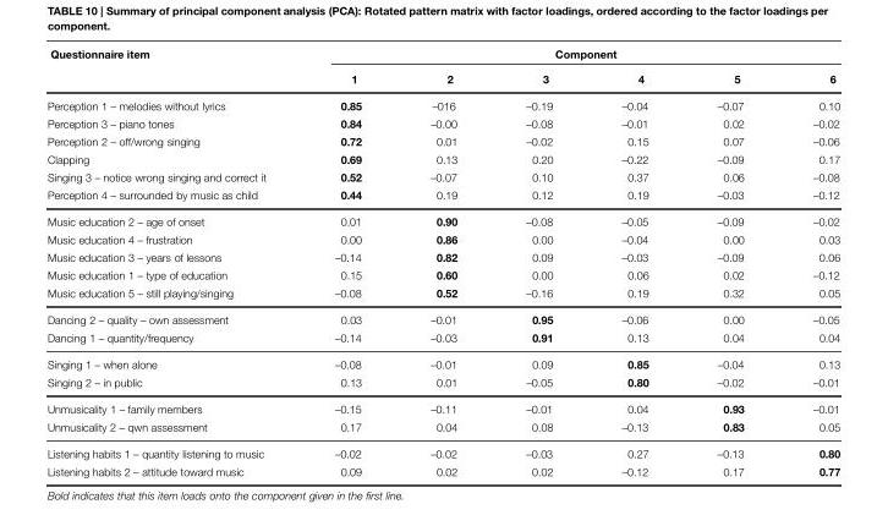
<table><thead><tr><td rowspan="2">Questionnaire item</td><td colspan="6">Component</td></tr><tr><td>1</td><td>2</td><td>3</td><td>4</td><td>5</td><td>6</td></tr></thead><tbody><tr><td>Perception 1 – melodies without lyrics</td><td>0.85</td><td>–016</td><td>–0.19</td><td>–0.04</td><td>–0.07</td><td>0.10</td></tr><tr><td>Perception 3 – piano tones</td><td>0.84</td><td>–0.00</td><td>–0.08</td><td>–0.01</td><td>0.02</td><td>–0.02</td></tr><tr><td>Perception 2 – off/wrong singing</td><td>0.72</td><td>0.01</td><td>–0.02</td><td>0.15</td><td>0.07</td><td>–0.06</td></tr><tr><td>Clapping</td><td>0.69</td><td>0.13</td><td>0.20</td><td>–0.22</td><td>–0.09</td><td>0.17</td></tr><tr><td>Singing 3 – notice wrong singing and correct it</td><td>0.52</td><td>–0.07</td><td>0.10</td><td>0.37</td><td>0.06</td><td>–0.08</td></tr><tr><td>Perception 4 – surrounded by music as child</td><td>0.44</td><td>0.19</td><td>0.12</td><td>0.19</td><td>–0.03</td><td>–0.12</td></tr><tr><td>Music education 2 – age of onset</td><td>0.01</td><td>0.90</td><td>–0.08</td><td>–0.05</td><td>–0.09</td><td>–0.02</td></tr><tr><td>Music education 4 – frustration</td><td>0.00</td><td>0.86</td><td>0.00</td><td>–0.04</td><td>0.00</td><td>0.03</td></tr><tr><td>Music education 3 – years of lessons</td><td>–0.14</td><td>0.82</td><td>0.09</td><td>–0.03</td><td>–0.09</td><td>0.06</td></tr><tr><td>Music education 1 – type of education</td><td>0.15</td><td>0.60</td><td>0.00</td><td>0.06</td><td>0.02</td><td>–0.12</td></tr><tr><td>Music education 5 – still playing/singing</td><td>–0.08</td><td>0.52</td><td>–0.16</td><td>0.19</td><td>0.32</td><td>0.05</td></tr><tr><td>Dancing 2 – quality – own assessment</td><td>0.03</td><td>–0.01</td><td>0.95</td><td>–0.06</td><td>0.00</td><td>–0.05</td></tr><tr><td>Dancing 1 – quantity/frequency</td><td>–0.14</td><td>–0.03</td><td>0.91</td><td>0.13</td><td>0.04</td><td>0.04</td></tr><tr><td>Singing 1 – when alone</td><td>–0.08</td><td>–0.01</td><td>0.09</td><td>0.85</td><td>–0.04</td><td>0.13</td></tr><tr><td>Singing 2 – in public</td><td>0.13</td><td>0.01</td><td>–0.05</td><td>0.80</td><td>–0.02</td><td>–0.01</td></tr><tr><td>Unmusicality 1 – family members</td><td>–0.15</td><td>–0.11</td><td>–0.01</td><td>0.04</td><td>0.93</td><td>–0.01</td></tr><tr><td>Unmusicality 2 – qwn assessment</td><td>0.17</td><td>0.04</td><td>0.08</td><td>–0.13</td><td>0.83</td><td>0.05</td></tr><tr><td>Listening habits 1 – quantity listening to music</td><td>–0.02</td><td>–0.02</td><td>–0.03</td><td>0.27</td><td>–0.13</td><td>0.80</td></tr><tr><td>Listening habits 2 – attitude toward music</td><td>0.09</td><td>0.02</td><td>0.02</td><td>–0.12</td><td>0.17</td><td>0.77</td></tr></tbody></table>